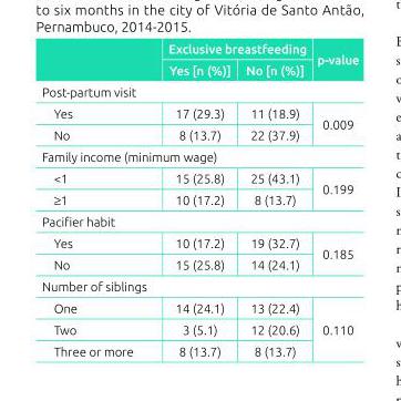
<table><thead><tr><td rowspan="2"></td><td colspan="2">Exclusive breastfeeding</td><td rowspan="2">p-value</td></tr><tr><td>Yes [n (%)]</td><td>No [n (%)]</td></tr></thead><tbody><tr><td colspan="4">Post-partum visit</td></tr><tr><td>Yes</td><td>17 (29.3)</td><td>11 (18.9)</td><td rowspan="2">0.009</td></tr><tr><td>No</td><td>8 (13.7)</td><td>22 (37.9)</td></tr><tr><td colspan="4">Family income (minimum wage)</td></tr><tr><td>&lt;1</td><td>15 (25.8)</td><td>25 (43.1)</td><td rowspan="2">0.199</td></tr><tr><td>≥1</td><td>10 (17.2)</td><td>8 (13.7)</td></tr><tr><td colspan="4">Pacifier habit</td></tr><tr><td>Yes</td><td>10 (17.2)</td><td>19 (32.7)</td><td rowspan="2">0.185</td></tr><tr><td>No</td><td>15 (25.8)</td><td>14 (24.1)</td></tr><tr><td colspan="4">Number of siblings</td></tr><tr><td>One</td><td>14 (24.1)</td><td>13 (22.4)</td><td rowspan="3">0.110</td></tr><tr><td>Two</td><td>3 (5.1)</td><td>12 (20.6)</td></tr><tr><td>Three or more</td><td>8 (13.7)</td><td>8 (13.7)</td></tr></tbody></table>